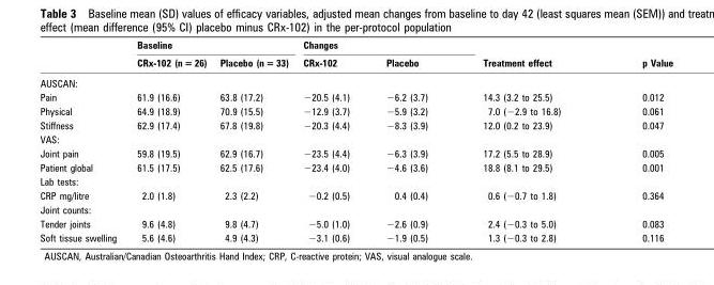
<table><thead><tr><td rowspan="2"></td><td colspan="2">Baseline</td><td colspan="2">Changes</td><td rowspan="2">Treatment effect</td><td rowspan="2">p Value</td></tr><tr><td>CRx-102 (n = 26)</td><td>Placebo (n = 33)</td><td>CRx-102</td><td>Placebo</td></tr></thead><tbody><tr><td colspan="7">AUSCAN:</td></tr><tr><td>Pain</td><td>61.9 (16.6)</td><td>63.8 (17.2)</td><td>−20.5 (4.1)</td><td>−6.2 (3.7)</td><td>14.3 (3.2 to 25.5)</td><td>0.012</td></tr><tr><td>Physical</td><td>64.9 (18.9)</td><td>70.9 (15.5)</td><td>−12.9 (3.7)</td><td>−5.9 (3.2)</td><td>7.0 (−2.9 to 16.8)</td><td>0.061</td></tr><tr><td>Stiffness</td><td>62.9 (17.4)</td><td>67.8 (19.8)</td><td>−20.3 (4.4)</td><td>−8.3 (3.9)</td><td>12.0 (0.2 to 23.9)</td><td>0.047</td></tr><tr><td colspan="7">VAS:</td></tr><tr><td>Joint pain</td><td>59.8 (19.5)</td><td>62.9 (16.7)</td><td>−23.5 (4.4)</td><td>−6.3 (3.9)</td><td>17.2 (5.5 to 28.9)</td><td>0.005</td></tr><tr><td>Patient global</td><td>61.5 (17.5)</td><td>62.5 (17.6)</td><td>−23.4 (4.0)</td><td>−4.6 (3.6)</td><td>18.8 (8.1 to 29.5)</td><td>0.001</td></tr><tr><td colspan="7">Lab tests:</td></tr><tr><td>CRP mg/litre</td><td>2.0 (1.8)</td><td>2.3 (2.2)</td><td>−0.2 (0.5)</td><td>0.4 (0.4)</td><td>0.6 (−0.7 to 1.8)</td><td>0.364</td></tr><tr><td colspan="7">Joint counts:</td></tr><tr><td>Tender joints</td><td>9.6 (4.8)</td><td>9.8 (4.7)</td><td>−5.0 (1.0)</td><td>−2.6 (0.9)</td><td>2.4 (−0.3 to 5.0)</td><td>0.083</td></tr><tr><td>Soft tissue swelling</td><td>5.6 (4.6)</td><td>4.9 (4.3)</td><td>−3.1 (0.6)</td><td>−1.9 (0.5)</td><td>1.3 (−0.3 to 2.8)</td><td>0.116</td></tr></tbody></table>